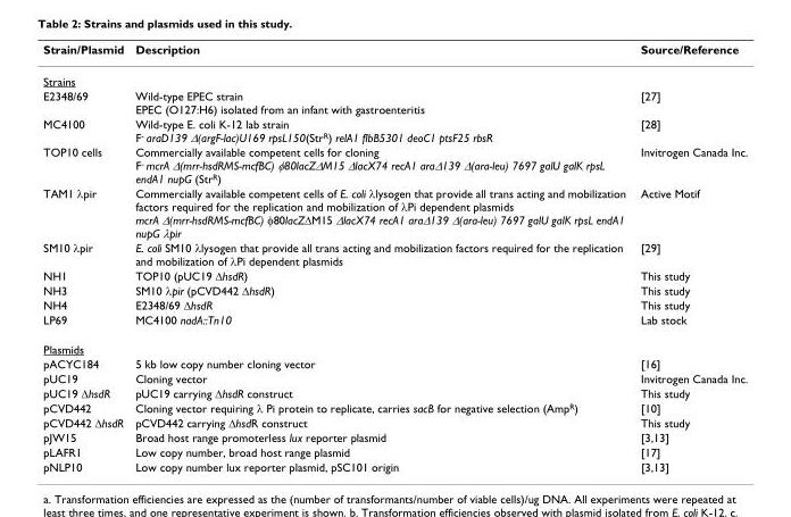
<table><thead><tr><td>Strain/Plasmid</td><td>Description</td><td>Source/Reference</td></tr></thead><tbody><tr><td colspan="3">Strains</td></tr><tr><td>E2348/69</td><td>Wild-type EPEC strain EPEC (O127:H6) isolated from an infant with gastroenteritis</td><td>[27]</td></tr><tr><td>MC4100</td><td>Wild-type E. coli K-12 lab strain F<sup>-</sup> araD139 Δ(argF-lac)U169 rpsL150(Str<sup>R</sup>) relA1 flbB5301 deoC1 ptsF25 rbsR</td><td>[28]</td></tr><tr><td>TOP10 cells</td><td>Commercially available competent cells for cloning F<sup>-</sup> mcrA Δ(mrr-hsdRMS-mcfBC) φ80lacZΔM15 ΔlacX74 recA1 araΔ139 Δ(ara-leu) 7697 galU galK rpsL endA1 nupG (Str<sup>R</sup>)</td><td>Invitrogen Canada Inc.</td></tr><tr><td>TAM1 λpir</td><td>Commercially available competent cells of E. coli λlysogen that provide all trans acting and mobilization factors required for the replication and mobilization of λPi dependent plasmids mcrA Δ(mrr-hsdRMS-mcfBC) φ80lacZΔM15 ΔlacX74 recA1 araΔ139 Δ(ara-leu) 7697 galU galK rpsL endA1 nupG λpir</td><td>Active Motif</td></tr><tr><td>SM10 λpir</td><td>E. coli SM10 λlysogen that provide all trans acting and mobilization factors required for the replication and mobilization of λPi dependent plasmids</td><td>[29]</td></tr><tr><td>NH1</td><td>TOP10 (pUC19 ΔhsdR)</td><td>This study</td></tr><tr><td>NH3</td><td>SM10 λpir (pCVD442 ΔhsdR)</td><td>This study</td></tr><tr><td>NH4</td><td>E2348/69 ΔhsdR</td><td>This study</td></tr><tr><td>LP69</td><td>MC4100 nadA::Tn10</td><td>Lab stock</td></tr><tr><td colspan="3">Plasmids</td></tr><tr><td>pACYC184</td><td>5 kb low copy number cloning vector</td><td>[16]</td></tr><tr><td>pUC19</td><td>Cloning vector</td><td>Invitrogen Canada Inc.</td></tr><tr><td>pUC19 ΔhsdR</td><td>pUC19 carrying ΔhsdR construct</td><td>This study</td></tr><tr><td>pCVD442</td><td>Cloning vector requiring λ Pi protein to replicate, carries sacB for negative selection (Amp<sup>R</sup>)</td><td>[10]</td></tr><tr><td>pCVD442 ΔhsdR</td><td>pCVD442 carrying ΔhsdR construct</td><td>This study</td></tr><tr><td>pJW15</td><td>Broad host range promoterless lux reporter plasmid</td><td>[3,13]</td></tr><tr><td>pLAFR1</td><td>Low copy number, broad host range plasmid</td><td>[17]</td></tr><tr><td>pNLP10</td><td>Low copy number lux reporter plasmid, pSC101 origin</td><td>[3,13]</td></tr></tbody></table>